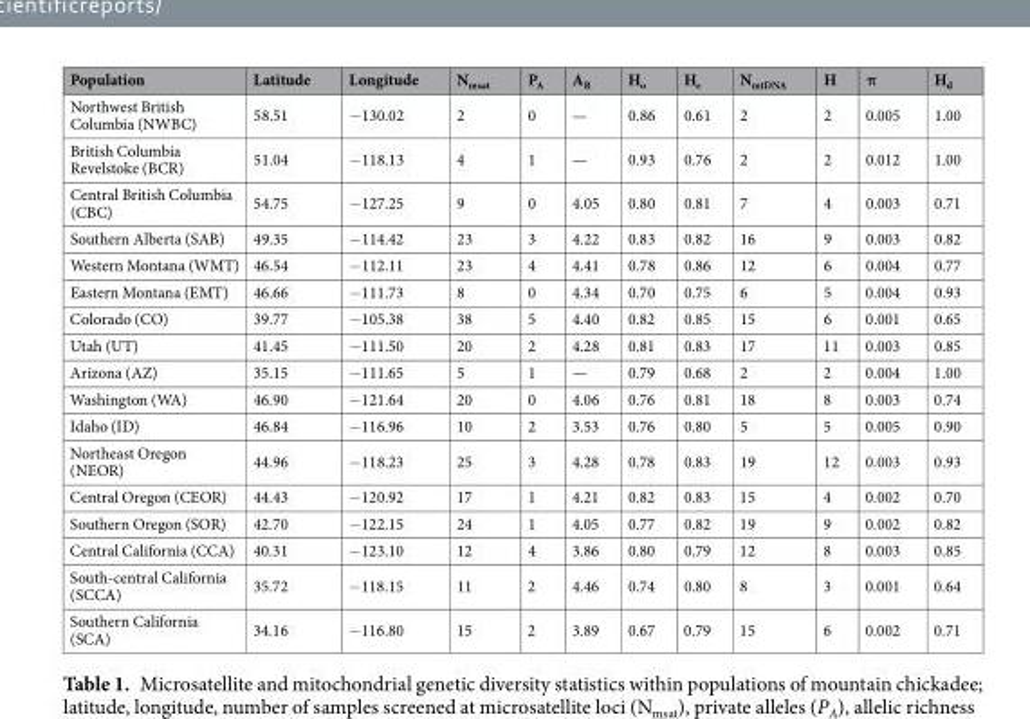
<table><thead><tr><td>Population</td><td>Latitude</td><td>Longitude</td><td>N<sub>msat</sub></td><td>P<sub>A</sub></td><td>A<sub>R</sub></td><td>H<sub>o</sub></td><td>H<sub>e</sub></td><td>N<sub>mtDNA</sub></td><td>H</td><td>π</td><td>H<sub>d</sub></td></tr></thead><tbody><tr><td>Northwest British Columbia (NWBC)</td><td>58.51</td><td>−130.02</td><td>2</td><td>0</td><td>—</td><td>0.86</td><td>0.61</td><td>2</td><td>2</td><td>0.005</td><td>1.00</td></tr><tr><td>British Columbia Revelstoke (BCR)</td><td>51.04</td><td>−118.13</td><td>4</td><td>1</td><td>—</td><td>0.93</td><td>0.76</td><td>2</td><td>2</td><td>0.012</td><td>1.00</td></tr><tr><td>Central British Columbia (CBC)</td><td>54.75</td><td>−127.25</td><td>9</td><td>0</td><td>4.05</td><td>0.80</td><td>0.81</td><td>7</td><td>4</td><td>0.003</td><td>0.71</td></tr><tr><td>Southern Alberta (SAB)</td><td>49.35</td><td>−114.42</td><td>23</td><td>3</td><td>4.22</td><td>0.83</td><td>0.82</td><td>16</td><td>9</td><td>0.003</td><td>0.82</td></tr><tr><td>Western Montana (WMT)</td><td>46.54</td><td>−112.11</td><td>23</td><td>4</td><td>4.41</td><td>0.78</td><td>0.86</td><td>12</td><td>6</td><td>0.004</td><td>0.77</td></tr><tr><td>Eastern Montana (EMT)</td><td>46.66</td><td>−111.73</td><td>8</td><td>0</td><td>4.34</td><td>0.70</td><td>0.75</td><td>6</td><td>5</td><td>0.004</td><td>0.93</td></tr><tr><td>Colorado (CO)</td><td>39.77</td><td>−105.38</td><td>38</td><td>5</td><td>4.40</td><td>0.82</td><td>0.85</td><td>15</td><td>6</td><td>0.001</td><td>0.65</td></tr><tr><td>Utah (UT)</td><td>41.45</td><td>−111.50</td><td>20</td><td>2</td><td>4.28</td><td>0.81</td><td>0.83</td><td>17</td><td>11</td><td>0.003</td><td>0.85</td></tr><tr><td>Arizona (AZ)</td><td>35.15</td><td>−111.65</td><td>5</td><td>1</td><td>—</td><td>0.79</td><td>0.68</td><td>2</td><td>2</td><td>0.004</td><td>1.00</td></tr><tr><td>Washington (WA)</td><td>46.90</td><td>−121.64</td><td>20</td><td>0</td><td>4.06</td><td>0.76</td><td>0.81</td><td>18</td><td>8</td><td>0.003</td><td>0.74</td></tr><tr><td>Idaho (ID)</td><td>46.84</td><td>−116.96</td><td>10</td><td>2</td><td>3.53</td><td>0.76</td><td>0.80</td><td>5</td><td>5</td><td>0.005</td><td>0.90</td></tr><tr><td>Northeast Oregon (NEOR)</td><td>44.96</td><td>−118.23</td><td>25</td><td>3</td><td>4.28</td><td>0.78</td><td>0.83</td><td>19</td><td>12</td><td>0.003</td><td>0.93</td></tr><tr><td>Central Oregon (CEOR)</td><td>44.43</td><td>−120.92</td><td>17</td><td>1</td><td>4.21</td><td>0.82</td><td>0.83</td><td>15</td><td>4</td><td>0.002</td><td>0.70</td></tr><tr><td>Southern Oregon (SOR)</td><td>42.70</td><td>−122.15</td><td>24</td><td>1</td><td>4.05</td><td>0.77</td><td>0.82</td><td>19</td><td>9</td><td>0.002</td><td>0.82</td></tr><tr><td>Central California (CCA)</td><td>40.31</td><td>−123.10</td><td>12</td><td>4</td><td>3.86</td><td>0.80</td><td>0.79</td><td>12</td><td>8</td><td>0.003</td><td>0.85</td></tr><tr><td>South-central California (SCCA)</td><td>35.72</td><td>−118.15</td><td>11</td><td>2</td><td>4.46</td><td>0.74</td><td>0.80</td><td>8</td><td>3</td><td>0.001</td><td>0.64</td></tr><tr><td>Southern California (SCA)</td><td>34.16</td><td>−116.80</td><td>15</td><td>2</td><td>3.89</td><td>0.67</td><td>0.79</td><td>15</td><td>6</td><td>0.002</td><td>0.71</td></tr></tbody></table>